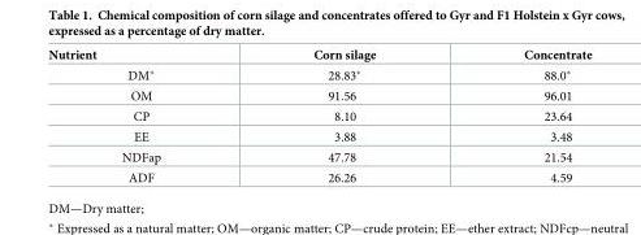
<table><thead><tr><td>Nutrient</td><td>Corn silage</td><td>Concentrate</td></tr></thead><tbody><tr><td>DM*</td><td>28.83*</td><td>88.0*</td></tr><tr><td>OM</td><td>91.56</td><td>96.01</td></tr><tr><td>CP</td><td>8.10</td><td>23.64</td></tr><tr><td>EE</td><td>3.88</td><td>3.48</td></tr><tr><td>NDFap</td><td>47.78</td><td>21.54</td></tr><tr><td>ADF</td><td>26.26</td><td>4.59</td></tr></tbody></table>